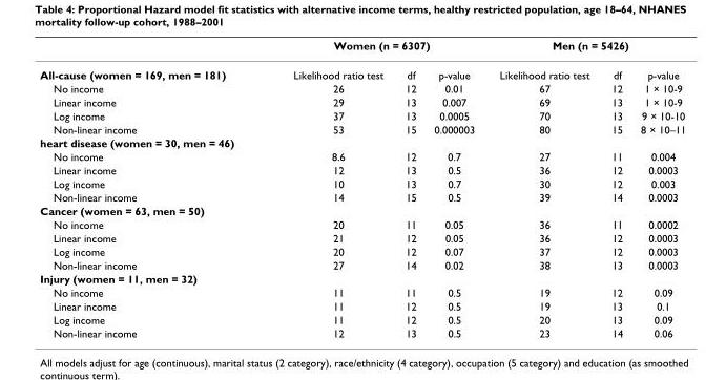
<table><thead><tr><td rowspan="2">All-cause (women = 169, men = 181)</td><td colspan="3">Women (n = 6307)</td><td colspan="3">Men (n = 5426)</td></tr><tr><td>Likelihood ratio test</td><td>df</td><td>p-value</td><td>Likelihood ratio test</td><td>df</td><td>p-value</td></tr></thead><tbody><tr><td>No income</td><td>26</td><td>12</td><td>0.01</td><td>67</td><td>12</td><td>1 × 10-9</td></tr><tr><td>Linear income</td><td>29</td><td>13</td><td>0.007</td><td>69</td><td>13</td><td>1 × 10-9</td></tr><tr><td>Log income</td><td>37</td><td>13</td><td>0.0005</td><td>70</td><td>13</td><td>9 × 10-10</td></tr><tr><td>Non-linear income</td><td>53</td><td>15</td><td>0.000003</td><td>80</td><td>15</td><td>8 × 10–11</td></tr><tr><td colspan="7">heart disease (women = 30, men = 46)</td></tr><tr><td>No income</td><td>8.6</td><td>12</td><td>0.7</td><td>27</td><td>11</td><td>0.004</td></tr><tr><td>Linear income</td><td>12</td><td>13</td><td>0.5</td><td>36</td><td>12</td><td>0.0003</td></tr><tr><td>Log income</td><td>10</td><td>13</td><td>0.7</td><td>30</td><td>12</td><td>0.003</td></tr><tr><td>Non-linear income</td><td>14</td><td>15</td><td>0.5</td><td>39</td><td>14</td><td>0.0003</td></tr><tr><td colspan="7">Cancer (women = 63, men = 50)</td></tr><tr><td>No income</td><td>20</td><td>11</td><td>0.05</td><td>36</td><td>11</td><td>0.0002</td></tr><tr><td>Linear income</td><td>21</td><td>12</td><td>0.05</td><td>36</td><td>12</td><td>0.0003</td></tr><tr><td>Log income</td><td>20</td><td>12</td><td>0.07</td><td>37</td><td>12</td><td>0.0003</td></tr><tr><td>Non-linear income</td><td>27</td><td>14</td><td>0.02</td><td>38</td><td>13</td><td>0.0003</td></tr><tr><td colspan="7">Injury (women = 11, men = 32)</td></tr><tr><td>No income</td><td>11</td><td>11</td><td>0.5</td><td>19</td><td>12</td><td>0.09</td></tr><tr><td>Linear income</td><td>11</td><td>12</td><td>0.5</td><td>19</td><td>13</td><td>0.1</td></tr><tr><td>Log income</td><td>11</td><td>12</td><td>0.5</td><td>20</td><td>13</td><td>0.09</td></tr><tr><td>Non-linear income</td><td>12</td><td>13</td><td>0.5</td><td>23</td><td>14</td><td>0.06</td></tr></tbody></table>